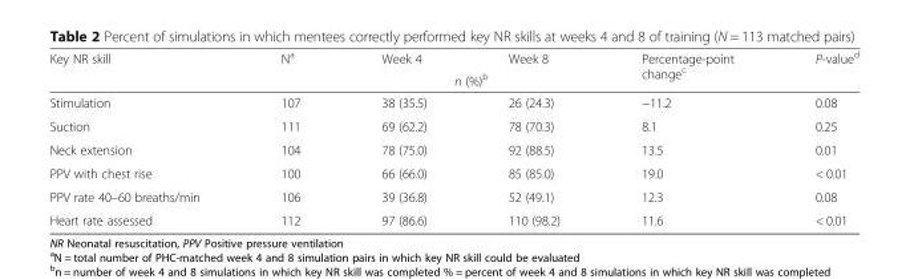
<table><thead><tr><td rowspan="2">Key NR skill</td><td rowspan="2">N<sup>a</sup></td><td>Week 4</td><td>Week 8</td><td rowspan="2">Percentage-point change<sup>c</sup></td><td rowspan="2">P-value<sup>d</sup></td></tr><tr><td colspan="2">n (%)<sup>b</sup></td></tr></thead><tbody><tr><td>Stimulation</td><td>107</td><td>38 (35.5)</td><td>26 (24.3)</td><td>−11.2</td><td>0.08</td></tr><tr><td>Suction</td><td>111</td><td>69 (62.2)</td><td>78 (70.3)</td><td>8.1</td><td>0.25</td></tr><tr><td>Neck extension</td><td>104</td><td>78 (75.0)</td><td>92 (88.5)</td><td>13.5</td><td>0.01</td></tr><tr><td>PPV with chest rise</td><td>100</td><td>66 (66.0)</td><td>85 (85.0)</td><td>19.0</td><td>&lt; 0.01</td></tr><tr><td>PPV rate 40–60 breaths/min</td><td>106</td><td>39 (36.8)</td><td>52 (49.1)</td><td>12.3</td><td>0.08</td></tr><tr><td>Heart rate assessed</td><td>112</td><td>97 (86.6)</td><td>110 (98.2)</td><td>11.6</td><td>&lt; 0.01</td></tr></tbody></table>